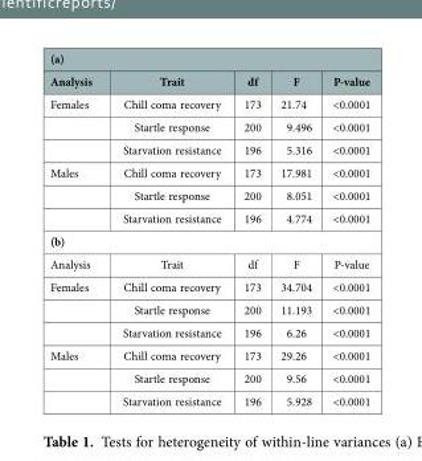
<table><thead><tr><td colspan="5">(a)</td></tr><tr><td>Analysis</td><td>Trait</td><td>df</td><td>F</td><td>P-value</td></tr></thead><tbody><tr><td rowspan="3">Females</td><td>Chill coma recovery</td><td>173</td><td>21.74</td><td>&lt;0.0001</td></tr><tr><td>Startle response</td><td>200</td><td>9.496</td><td>&lt;0.0001</td></tr><tr><td>Starvation resistance</td><td>196</td><td>5.316</td><td>&lt;0.0001</td></tr><tr><td rowspan="3">Males</td><td>Chill coma recovery</td><td>173</td><td>17.981</td><td>&lt;0.0001</td></tr><tr><td>Startle response</td><td>200</td><td>8.051</td><td>&lt;0.0001</td></tr><tr><td>Starvation resistance</td><td>196</td><td>4.774</td><td>&lt;0.0001</td></tr><tr><td colspan="5">(b)</td></tr><tr><td>Analysis</td><td>Trait</td><td>df</td><td>F</td><td>P-value</td></tr><tr><td rowspan="3">Females</td><td>Chill coma recovery</td><td>173</td><td>34.704</td><td>&lt;0.0001</td></tr><tr><td>Startle response</td><td>200</td><td>11.193</td><td>&lt;0.0001</td></tr><tr><td>Starvation resistance</td><td>196</td><td>6.26</td><td>&lt;0.0001</td></tr><tr><td rowspan="3">Males</td><td>Chill coma recovery</td><td>173</td><td>29.26</td><td>&lt;0.0001</td></tr><tr><td>Startle response</td><td>200</td><td>9.56</td><td>&lt;0.0001</td></tr><tr><td>Starvation resistance</td><td>196</td><td>5.928</td><td>&lt;0.0001</td></tr></tbody></table>